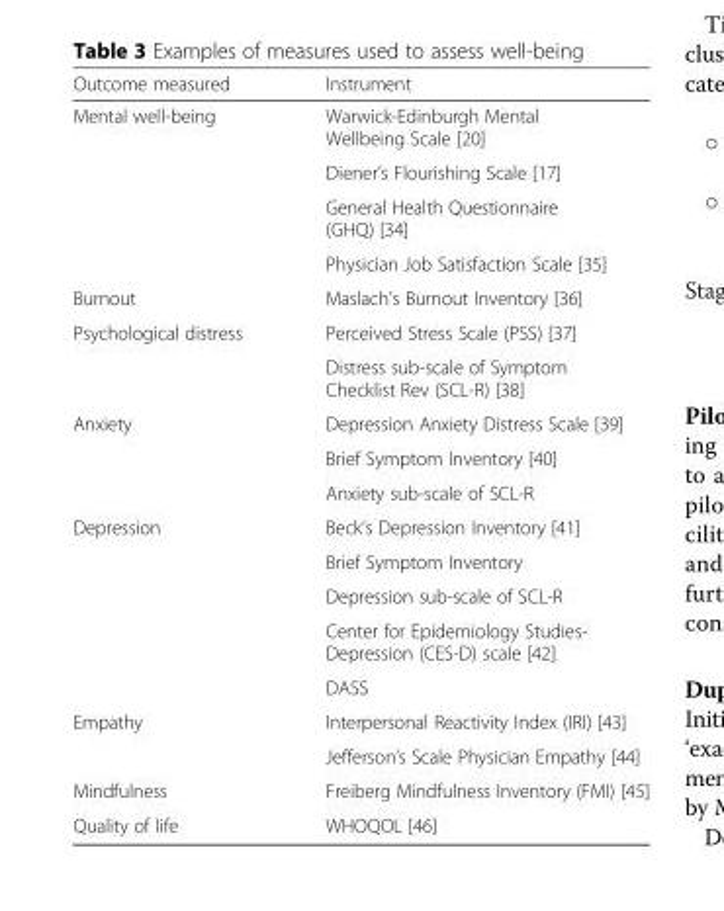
<table><thead><tr><td>Outcome measured</td><td>Instrument</td></tr></thead><tbody><tr><td rowspan="4">Mental well-being</td><td>Warwick-Edinburgh Mental Wellbeing Scale [20]</td></tr><tr><td>Diener’s Flourishing Scale [17]</td></tr><tr><td>General Health Questionnaire (GHQ) [34]</td></tr><tr><td>Physician Job Satisfaction Scale [35]</td></tr><tr><td>Burnout</td><td>Maslach’s Burnout Inventory [36]</td></tr><tr><td rowspan="2">Psychological distress</td><td>Perceived Stress Scale (PSS) [37]</td></tr><tr><td>Distress sub-scale of Symptom Checklist Rev (SCL-R) [38]</td></tr><tr><td rowspan="3">Anxiety</td><td>Depression Anxiety Distress Scale [39]</td></tr><tr><td>Brief Symptom Inventory [40]</td></tr><tr><td>Anxiety sub-scale of SCL-R</td></tr><tr><td rowspan="5">Depression</td><td>Beck’s Depression Inventory [41]</td></tr><tr><td>Brief Symptom Inventory</td></tr><tr><td>Depression sub-scale of SCL-R</td></tr><tr><td>Center for Epidemiology Studies- Depression (CES-D) scale [42]</td></tr><tr><td>DASS</td></tr><tr><td rowspan="2">Empathy</td><td>Interpersonal Reactivity Index (IRI) [43]</td></tr><tr><td>Jefferson’s Scale Physician Empathy [44]</td></tr><tr><td>Mindfulness</td><td>Freiberg Mindfulness Inventory (FMI) [45]</td></tr><tr><td>Quality of life</td><td>WHOQOL [46]</td></tr></tbody></table>